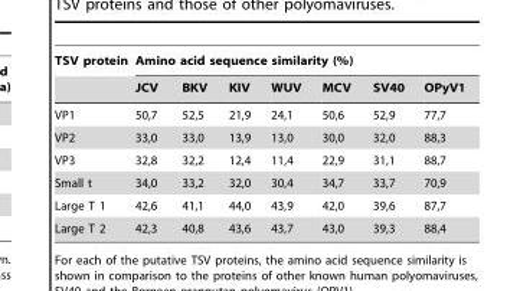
<table><thead><tr><td rowspan="2">TSV protein</td><td colspan="7">Amino acid sequence similarity (%)</td></tr><tr><td>JCV</td><td>BKV</td><td>KIV</td><td>WUV</td><td>MCV</td><td>SV40</td><td>OPyV1</td></tr></thead><tbody><tr><td>VP1</td><td>50,7</td><td>52,5</td><td>21,9</td><td>24,1</td><td>50,6</td><td>52,9</td><td>77,7</td></tr><tr><td>VP2</td><td>33,0</td><td>33,0</td><td>13,9</td><td>13,0</td><td>30,0</td><td>32,0</td><td>88,3</td></tr><tr><td>VP3</td><td>32,8</td><td>32,2</td><td>12,4</td><td>11,4</td><td>22,9</td><td>31,1</td><td>88,7</td></tr><tr><td>Small t</td><td>34,0</td><td>33,2</td><td>32,0</td><td>30,4</td><td>34,7</td><td>33,7</td><td>70,9</td></tr><tr><td>Large T 1</td><td>42,6</td><td>41,1</td><td>44,0</td><td>43,9</td><td>42,0</td><td>39,6</td><td>87,7</td></tr><tr><td>Large T 2</td><td>42,3</td><td>40,8</td><td>43,6</td><td>43,7</td><td>43,0</td><td>39,3</td><td>88,4</td></tr></tbody></table>